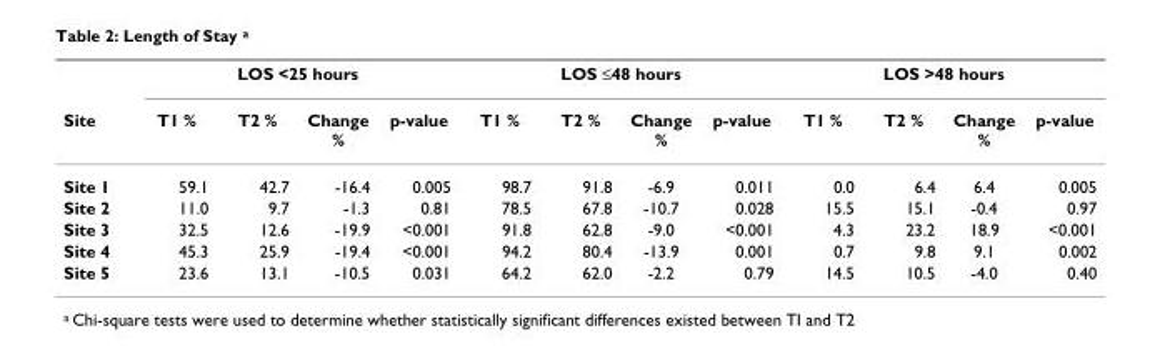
<table><thead><tr><td rowspan="2">Site</td><td colspan="4">LOS &lt;25 hours</td><td colspan="4">LOS ≤48 hours</td><td colspan="4">LOS &gt;48 hours</td></tr><tr><td>T1 %</td><td>T2 %</td><td>Change %</td><td>p-value</td><td>T1 %</td><td>T2 %</td><td>Change %</td><td>p-value</td><td>T1 %</td><td>T2 %</td><td>Change %</td><td>p-value</td></tr></thead><tbody><tr><td>Site 1</td><td>59.1</td><td>42.7</td><td>-16.4</td><td>0.005</td><td>98.7</td><td>91.8</td><td>-6.9</td><td>0.011</td><td>0.0</td><td>6.4</td><td>6.4</td><td>0.005</td></tr><tr><td>Site 2</td><td>11.0</td><td>9.7</td><td>-1.3</td><td>0.81</td><td>78.5</td><td>67.8</td><td>-10.7</td><td>0.028</td><td>15.5</td><td>15.1</td><td>-0.4</td><td>0.97</td></tr><tr><td>Site 3</td><td>32.5</td><td>12.6</td><td>-19.9</td><td>&lt;0.001</td><td>91.8</td><td>62.8</td><td>-9.0</td><td>&lt;0.001</td><td>4.3</td><td>23.2</td><td>18.9</td><td>&lt;0.001</td></tr><tr><td>Site 4</td><td>45.3</td><td>25.9</td><td>-19.4</td><td>&lt;0.001</td><td>94.2</td><td>80.4</td><td>-13.9</td><td>0.001</td><td>0.7</td><td>9.8</td><td>9.1</td><td>0.002</td></tr><tr><td>Site 5</td><td>23.6</td><td>13.1</td><td>-10.5</td><td>0.031</td><td>64.2</td><td>62.0</td><td>-2.2</td><td>0.79</td><td>14.5</td><td>10.5</td><td>-4.0</td><td>0.40</td></tr></tbody></table>